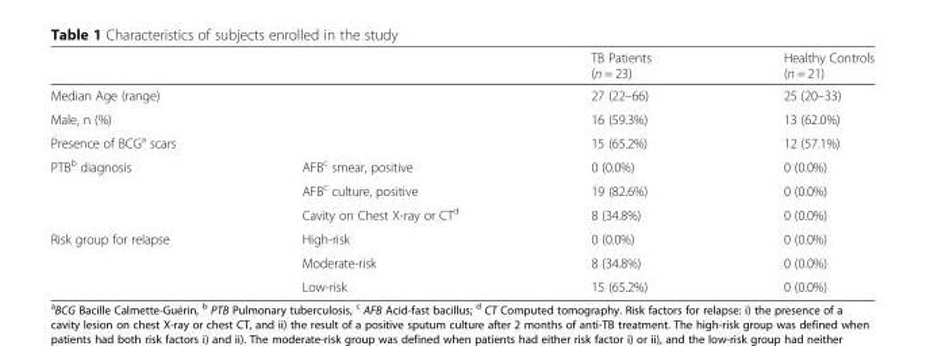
<table><thead><tr><td></td><td></td><td>TB Patients (n = 23)</td><td>Healthy Controls (n = 21)</td></tr></thead><tbody><tr><td colspan="2">Median Age (range)</td><td>27 (22–66)</td><td>25 (20–33)</td></tr><tr><td colspan="2">Male, n (%)</td><td>16 (59.3%)</td><td>13 (62.0%)</td></tr><tr><td colspan="2">Presence of BCG<sup>a</sup> scars</td><td>15 (65.2%)</td><td>12 (57.1%)</td></tr><tr><td rowspan="3">PTB<sup>b</sup> diagnosis</td><td>AFB<sup>c</sup> smear, positive</td><td>0 (0.0%)</td><td>0 (0.0%)</td></tr><tr><td>AFB<sup>c</sup> culture, positive</td><td>19 (82.6%)</td><td>0 (0.0%)</td></tr><tr><td>Cavity on Chest X-ray or CT<sup>d</sup></td><td>8 (34.8%)</td><td>0 (0.0%)</td></tr><tr><td rowspan="3">Risk group for relapse</td><td>High-risk</td><td>0 (0.0%)</td><td>0 (0.0%)</td></tr><tr><td>Moderate-risk</td><td>8 (34.8%)</td><td>0 (0.0%)</td></tr><tr><td>Low-risk</td><td>15 (65.2%)</td><td>0 (0.0%)</td></tr></tbody></table>